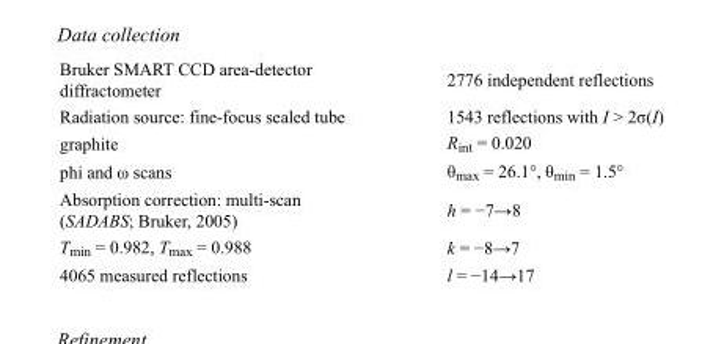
<table><tbody><tr><td>Bruker SMART CCD area-detector diffractometer</td><td>2776 independent reflections</td></tr><tr><td>Radiation source: fine-focus sealed tube</td><td>1543 reflections with I &gt; 2σ(I)</td></tr><tr><td>graphite</td><td>R<sub>int</sub> = 0.020</td></tr><tr><td>phi and ω scans</td><td>θ<sub>max</sub> = 26.1°, θ<sub>min</sub> = 1.5°</td></tr><tr><td>Absorption correction: multi-scan (SADABS; Bruker, 2005)</td><td>h = −7→8</td></tr><tr><td>T<sub>min</sub> = 0.982, T<sub>max</sub> = 0.988</td><td>k = −8→7</td></tr><tr><td>4065 measured reflections</td><td>l = −14→17</td></tr></tbody></table>